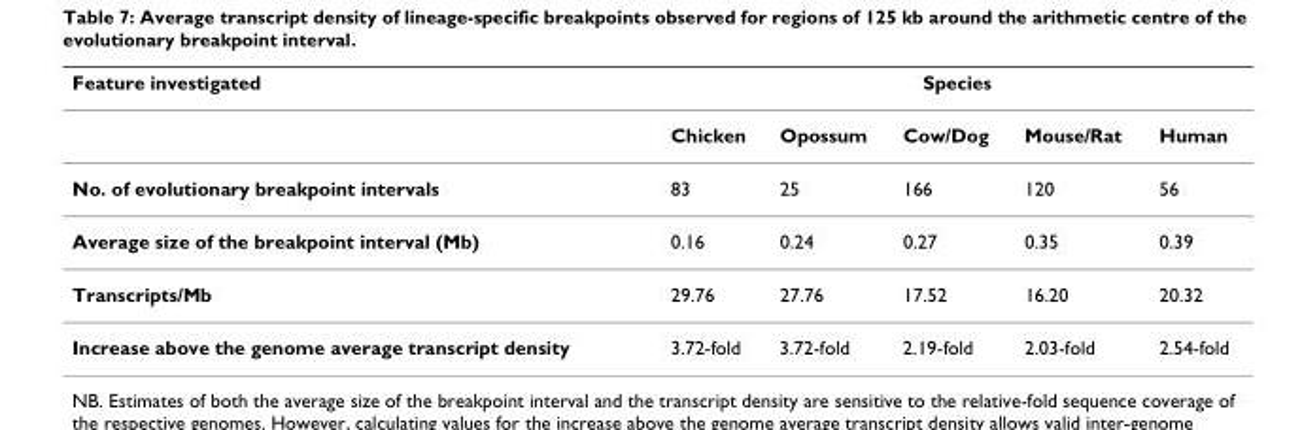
<table><thead><tr><td rowspan="2">Feature investigated</td><td colspan="5">Species</td></tr><tr><td>Chicken</td><td>Opossum</td><td>Cow/Dog</td><td>Mouse/Rat</td><td>Human</td></tr></thead><tbody><tr><td>No. of evolutionary breakpoint intervals</td><td>83</td><td>25</td><td>166</td><td>120</td><td>56</td></tr><tr><td>Average size of the breakpoint interval (Mb)</td><td>0.16</td><td>0.24</td><td>0.27</td><td>0.35</td><td>0.39</td></tr><tr><td>Transcripts/Mb</td><td>29.76</td><td>27.76</td><td>17.52</td><td>16.20</td><td>20.32</td></tr><tr><td>Increase above the genome average transcript density</td><td>3.72-fold</td><td>3.72-fold</td><td>2.19-fold</td><td>2.03-fold</td><td>2.54-fold</td></tr></tbody></table>